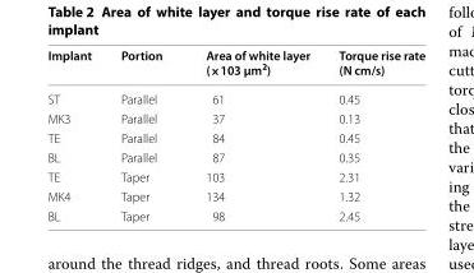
<table><thead><tr><td>Implant</td><td>Portion</td><td>Area of white layer (×103 μm<sup>2</sup>)</td><td>Torque rise rate (N cm/s)</td></tr></thead><tbody><tr><td>ST</td><td>Parallel</td><td>61</td><td>0.45</td></tr><tr><td>MK3</td><td>Parallel</td><td>37</td><td>0.13</td></tr><tr><td>TE</td><td>Parallel</td><td>84</td><td>0.45</td></tr><tr><td>BL</td><td>Parallel</td><td>87</td><td>0.35</td></tr><tr><td>TE</td><td>Taper</td><td>103</td><td>2.31</td></tr><tr><td>MK4</td><td>Taper</td><td>134</td><td>1.32</td></tr><tr><td>BL</td><td>Taper</td><td>98</td><td>2.45</td></tr></tbody></table>